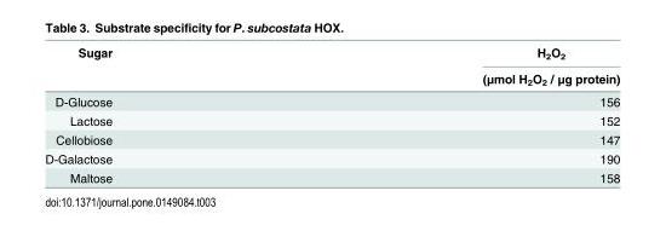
<table><thead><tr><td rowspan="2">Sugar</td><td rowspan="2">H<sub>2</sub>O<sub>2</sub> (μmol H<sub>2</sub>O<sub>2</sub> / μg protein)</td></tr><tr></tr></thead><tbody><tr><td>D-Glucose</td><td>156</td></tr><tr><td>Lactose</td><td>152</td></tr><tr><td>Cellobiose</td><td>147</td></tr><tr><td>D-Galactose</td><td>190</td></tr><tr><td>Maltose</td><td>158</td></tr></tbody></table>